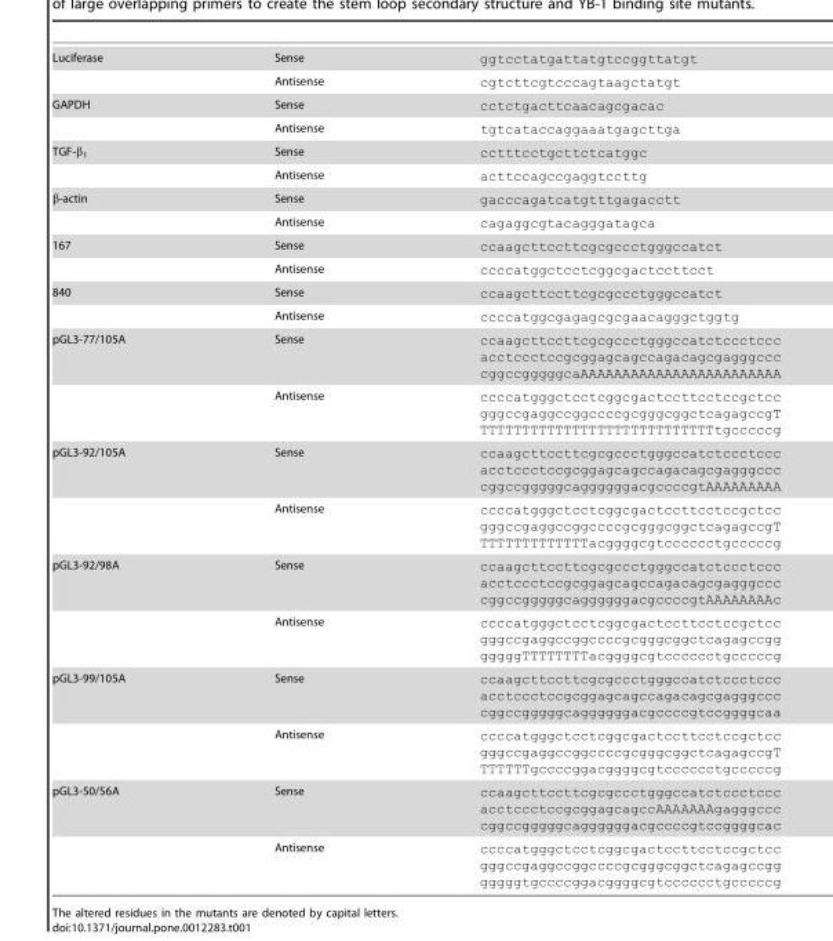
<table><tbody><tr><td rowspan="2">Luciferase</td><td>Sense</td><td>ggtcctatgattatgtccggttatgt</td></tr><tr><td>Antisense</td><td>cgtcttcgtcccagtaagctatgt</td></tr><tr><td rowspan="2">GAPDH</td><td>Sense</td><td>cctctgacttcaacagcgacac</td></tr><tr><td>Antisense</td><td>tgtcataccaggaaatgagcttga</td></tr><tr><td rowspan="2">TGF-β<sub>1</sub></td><td>Sense</td><td>cctttcctgcttctcatggc</td></tr><tr><td>Antisense</td><td>acttccagccgaggtccttg</td></tr><tr><td rowspan="2">β-actin</td><td>Sense</td><td>gacccagatcatgtttgagacctt</td></tr><tr><td>Antisense</td><td>cagaggcgtacagggatagca</td></tr><tr><td rowspan="2">167</td><td>Sense</td><td>ccaagcttccttcgcgccctgggccatct</td></tr><tr><td>Antisense</td><td>ccccatggctcctcggcgactccttcct</td></tr><tr><td rowspan="2">840</td><td>Sense</td><td>ccaagcttccttcgcgccctgggccatct</td></tr><tr><td>Antisense</td><td>ccccatggcgagagcgcgaacagggctggtg</td></tr><tr><td rowspan="2">pGL3-77/105A</td><td>Sense</td><td>ccaagcttccttcgcgccctgggccatctccctccc acctccctccgcggagcagccagacagcgagggccc cggccgggggcaAAAAAAAAAAAAAAAAAAAAAAAA</td></tr><tr><td>Antisense</td><td>ccccatgggctcctcggcgactccttcctccgctcc gggccgaggccggccccgcgggcggctcagagccgT TTTTTTTTTTTTTTTTTTTTTTTTTTTTtgcccccg</td></tr><tr><td rowspan="2">pGL3-92/105A</td><td>Sense</td><td>ccaagcttccttcgcgccctgggccatctccctccc acctccctccgcggagcagccagacagcgagggccc cggccgggggcaggggggacgccccgtAAAAAAAAA</td></tr><tr><td>Antisense</td><td>ccccatgggctcctcggcgactccttcctccgctcc gggccgaggccggccccgcgggcggctcagagccgT TTTTTTTTTTTTTacggggcgtcccccctgcccccg</td></tr><tr><td rowspan="2">pGL3-92/98A</td><td>Sense</td><td>ccaagcttccttcgcgccctgggccatctccctccc acctccctccgcggagcagccagacagcgagggccc cggccgggggcaggggggacgccccgtAAAAAAAAc</td></tr><tr><td>Antisense</td><td>ccccatgggctcctcggcgactccttcctccgctcc gggccgaggccggccccgcgggcggctcagagccgg gggggTTTTTTTTacggggcgtcccccctgcccccg</td></tr><tr><td rowspan="2">pGL3-99/105A</td><td>Sense</td><td>ccaagcttccttcgcgccctgggccatctccctccc acctccctccgcggagcagccagacagcgagggccc cggccgggggcaggggggacgccccgtccggggcaa</td></tr><tr><td>Antisense</td><td>ccccatgggctcctcggcgactccttcctccgctcc gggccgaggccggccccgcgggcggctcagagccgT TTTTTTgccccggacggggcgtcccccctgcccccg</td></tr><tr><td rowspan="2">pGL3-50/56A</td><td>Sense</td><td>ccaagcttccttcgcgccctgggccatctccctccc acctccctccgcggagcagccAAAAAAAgagggccc cggccgggggcaggggggacgccccgtccggggcac</td></tr><tr><td>Antisense</td><td>ccccatgggctcctcggcgactccttcctccgctcc gggccgaggccggccccgcgggcggctcagagccgg gggggtgccccggacggggcgtcccccctgcccccg</td></tr></tbody></table>